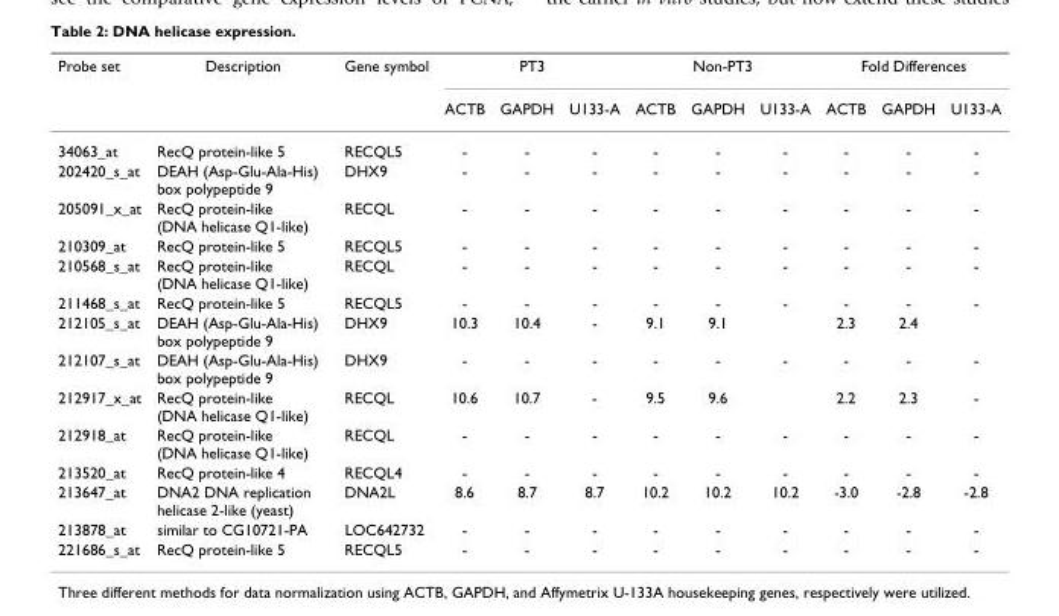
<table><thead><tr><td rowspan="2">Probe set</td><td rowspan="2">Description</td><td rowspan="2">Gene symbol</td><td colspan="3">PT3</td><td colspan="3">Non-PT3</td><td colspan="3">Fold Differences</td></tr><tr><td>ACTB</td><td>GAPDH</td><td>U133-A</td><td>ACTB</td><td>GAPDH</td><td>U133-A</td><td>ACTB</td><td>GAPDH</td><td>U133-A</td></tr></thead><tbody><tr><td>34063_at</td><td>RecQ protein-like 5</td><td>RECQL5</td><td>-</td><td>-</td><td>-</td><td>-</td><td>-</td><td>-</td><td>-</td><td>-</td><td>-</td></tr><tr><td>202420_s_at</td><td>DEAH (Asp-Glu-Ala-His) box polypeptide 9</td><td>DHX9</td><td>-</td><td>-</td><td>-</td><td>-</td><td>-</td><td>-</td><td>-</td><td>-</td><td>-</td></tr><tr><td>205091_x_at</td><td>RecQ protein-like (DNA helicase Q1-like)</td><td>RECQL</td><td>-</td><td>-</td><td>-</td><td>-</td><td>-</td><td>-</td><td>-</td><td>-</td><td>-</td></tr><tr><td>210309_at</td><td>RecQ protein-like 5</td><td>RECQL5</td><td>-</td><td>-</td><td>-</td><td>-</td><td>-</td><td>-</td><td>-</td><td>-</td><td>-</td></tr><tr><td>210568_s_at</td><td>RecQ protein-like (DNA helicase Q1-like)</td><td>RECQL</td><td>-</td><td>-</td><td>-</td><td>-</td><td>-</td><td>-</td><td>-</td><td>-</td><td>-</td></tr><tr><td>211468_s_at</td><td>RecQ protein-like 5</td><td>RECQL5</td><td>-</td><td>-</td><td>-</td><td>-</td><td>-</td><td>-</td><td>-</td><td>-</td><td>-</td></tr><tr><td>212105_s_at</td><td>DEAH (Asp-Glu-Ala-His) box polypeptide 9</td><td>DHX9</td><td>10.3</td><td>10.4</td><td>-</td><td>9.1</td><td>9.1</td><td></td><td>2.3</td><td>2.4</td><td></td></tr><tr><td>212107_s_at</td><td>DEAH (Asp-Glu-Ala-His) box polypeptide 9</td><td>DHX9</td><td>-</td><td>-</td><td>-</td><td>-</td><td>-</td><td>-</td><td>-</td><td>-</td><td>-</td></tr><tr><td>212917_x_at</td><td>RecQ protein-like (DNA helicase Q1-like)</td><td>RECQL</td><td>10.6</td><td>10.7</td><td>-</td><td>9.5</td><td>9.6</td><td></td><td>2.2</td><td>2.3</td><td>-</td></tr><tr><td>212918_at</td><td>RecQ protein-like (DNA helicase Q1-like)</td><td>RECQL</td><td>-</td><td>-</td><td>-</td><td>-</td><td>-</td><td>-</td><td>-</td><td>-</td><td>-</td></tr><tr><td>213520_at</td><td>RecQ protein-like 4</td><td>RECQL4</td><td>-</td><td>-</td><td>-</td><td>-</td><td>-</td><td>-</td><td>-</td><td>-</td><td>-</td></tr><tr><td>213647_at</td><td>DNA2 DNA replication helicase 2-like (yeast)</td><td>DNA2L</td><td>8.6</td><td>8.7</td><td>8.7</td><td>10.2</td><td>10.2</td><td>10.2</td><td>-3.0</td><td>-2.8</td><td>-2.8</td></tr><tr><td>213878_at</td><td>similar to CG10721-PA</td><td>LOC642732</td><td>-</td><td>-</td><td>-</td><td>-</td><td>-</td><td>-</td><td>-</td><td>-</td><td>-</td></tr><tr><td>221686_s_at</td><td>RecQ protein-like 5</td><td>RECQL5</td><td>-</td><td>-</td><td>-</td><td>-</td><td>-</td><td>-</td><td>-</td><td>-</td><td>-</td></tr></tbody></table>